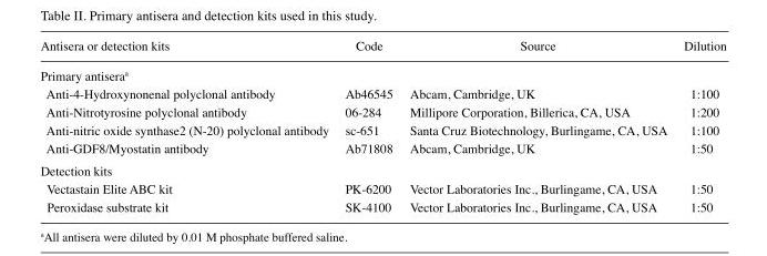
<table><thead><tr><td>Antisera or detection kits</td><td>Code</td><td>Source</td><td>Dilution</td></tr></thead><tbody><tr><td colspan="4">Primary antisera<sup>a</sup></td></tr><tr><td>Anti-4-Hydroxynonenal polyclonal antibody</td><td>Ab46545</td><td>Abcam, Cambridge, UK</td><td>1:100</td></tr><tr><td>Anti-Nitrotyrosine polyclonal antibody</td><td>06-284</td><td>Millipore Corporation, Billerica, CA, USA</td><td>1:200</td></tr><tr><td>Anti-nitric oxide synthase2 (N-20) polyclonal antibody</td><td>sc-651</td><td>Santa Cruz Biotechnology, Burlingame, CA, USA</td><td>1:100</td></tr><tr><td>Anti-GDF8/Myostatin antibody</td><td>Ab71808</td><td>Abcam, Cambridge, UK</td><td>1:50</td></tr><tr><td colspan="4">Detection kits</td></tr><tr><td>Vectastain Elite ABC kit</td><td>PK-6200</td><td>Vector Laboratories Inc., Burlingame, CA, USA</td><td>1:50</td></tr><tr><td>Peroxidase substrate kit</td><td>SK-4100</td><td>Vector Laboratories Inc., Burlingame, CA, USA</td><td>1:50</td></tr></tbody></table>